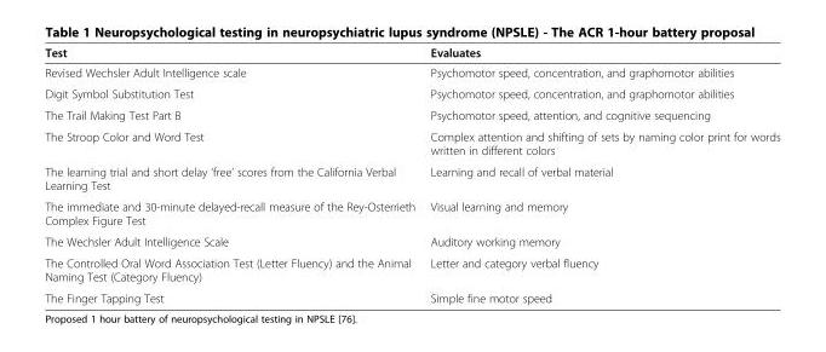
<table><thead><tr><td>Test</td><td>Evaluates</td></tr></thead><tbody><tr><td>Revised Wechsler Adult Intelligence scale</td><td>Psychomotor speed, concentration, and graphomotor abilities</td></tr><tr><td>Digit Symbol Substitution Test</td><td>Psychomotor speed, concentration, and graphomotor abilities</td></tr><tr><td>The Trail Making Test Part B</td><td>Psychomotor speed, attention, and cognitive sequencing</td></tr><tr><td>The Stroop Color and Word Test</td><td>Complex attention and shifting of sets by naming color print for words written in different colors</td></tr><tr><td>The learning trial and short delay ‘free’ scores from the California Verbal Learning Test</td><td>Learning and recall of verbal material</td></tr><tr><td>The immediate and 30-minute delayed-recall measure of the Rey-Osterrieth Complex Figure Test</td><td>Visual learning and memory</td></tr><tr><td>The Wechsler Adult Intelligence Scale</td><td>Auditory working memory</td></tr><tr><td>The Controlled Oral Word Association Test (Letter Fluency) and the Animal Naming Test (Category Fluency)</td><td>Letter and category verbal fluency</td></tr><tr><td>The Finger Tapping Test</td><td>Simple fine motor speed</td></tr></tbody></table>